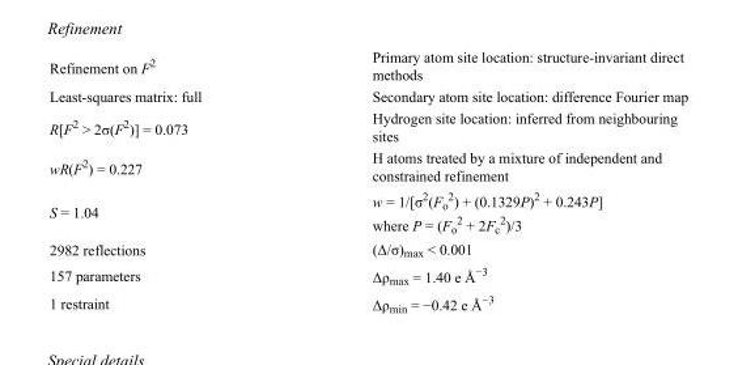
<table><tbody><tr><td>Refinement on F<sup>2</sup></td><td>Primary atom site location: structure-invariant direct methods</td></tr><tr><td>Least-squares matrix: full</td><td>Secondary atom site location: difference Fourier map</td></tr><tr><td>R[F<sup>2</sup> &gt; 2σ(F<sup>2</sup>)] = 0.073</td><td>Hydrogen site location: inferred from neighbouring sites</td></tr><tr><td>wR(F<sup>2</sup>) = 0.227</td><td>H atoms treated by a mixture of independent and constrained refinement</td></tr><tr><td>S = 1.04</td><td>w = 1/[σ<sup>2</sup>(F<sub>o</sub> <sup>2</sup>) + (0.1329P)<sup>2</sup> + 0.243P] where P = (F<sub>o</sub> <sup>2</sup> + 2F<sub>c</sub> <sup>2</sup>)/3</td></tr><tr><td>2982 reflections</td><td>(Δ/σ)<sub>max</sub> &lt; 0.001</td></tr><tr><td>157 parameters</td><td>Δρ<sub>max</sub> = 1.40 e Å<sup>−3</sup></td></tr><tr><td>1 restraint</td><td>Δρ<sub>min</sub> = −0.42 e Å<sup>−3</sup></td></tr></tbody></table>